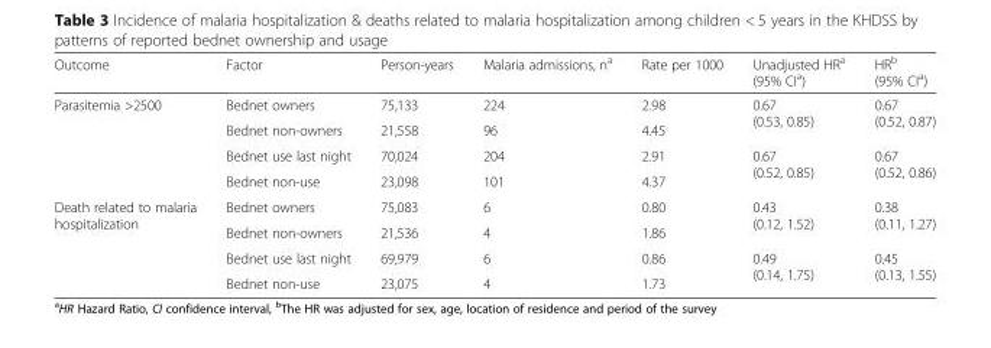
<table><thead><tr><td>Outcome</td><td>Factor</td><td>Person-years</td><td>Malaria admissions, n<sup>a</sup></td><td>Rate per 1000</td><td>Unadjusted HR<sup>a</sup> (95% CI<sup>a</sup>)</td><td>HR<sup>b</sup> (95% CI<sup>a</sup>)</td></tr></thead><tbody><tr><td rowspan="4">Parasitemia &gt;2500</td><td>Bednet owners</td><td>75,133</td><td>224</td><td>2.98</td><td rowspan="2">0.67 (0.53, 0.85)</td><td rowspan="2">0.67 (0.52, 0.87)</td></tr><tr><td>Bednet non-owners</td><td>21,558</td><td>96</td><td>4.45</td></tr><tr><td>Bednet use last night</td><td>70,024</td><td>204</td><td>2.91</td><td rowspan="2">0.67 (0.52, 0.85)</td><td rowspan="2">0.67 (0.52, 0.86)</td></tr><tr><td>Bednet non-use</td><td>23,098</td><td>101</td><td>4.37</td></tr><tr><td rowspan="4">Death related to malaria hospitalization</td><td>Bednet owners</td><td>75,083</td><td>6</td><td>0.80</td><td rowspan="2">0.43 (0.12, 1.52)</td><td rowspan="2">0.38 (0.11, 1.27)</td></tr><tr><td>Bednet non-owners</td><td>21,536</td><td>4</td><td>1.86</td></tr><tr><td>Bednet use last night</td><td>69,979</td><td>6</td><td>0.86</td><td rowspan="2">0.49 (0.14, 1.75)</td><td rowspan="2">0.45 (0.13, 1.55)</td></tr><tr><td>Bednet non-use</td><td>23,075</td><td>4</td><td>1.73</td></tr></tbody></table>